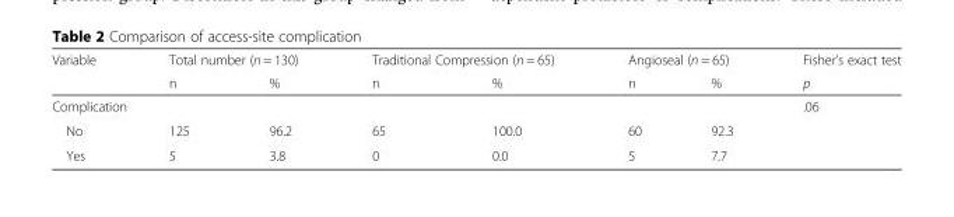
<table><thead><tr><td rowspan="2">Variable</td><td colspan="2">Total number (n = 130)</td><td colspan="2">Traditional Compression (n = 65)</td><td colspan="2">Angioseal (n = 65)</td><td rowspan="2">Fisher’s exact test p</td></tr><tr><td>n</td><td>%</td><td>n</td><td>%</td><td>n</td><td>%</td></tr></thead><tbody><tr><td>Complication</td><td></td><td></td><td></td><td></td><td></td><td></td><td>.06</td></tr><tr><td>No</td><td>125</td><td>96.2</td><td>65</td><td>100.0</td><td>60</td><td>92.3</td><td></td></tr><tr><td>Yes</td><td>5</td><td>3.8</td><td>0</td><td>0.0</td><td>5</td><td>7.7</td><td></td></tr></tbody></table>